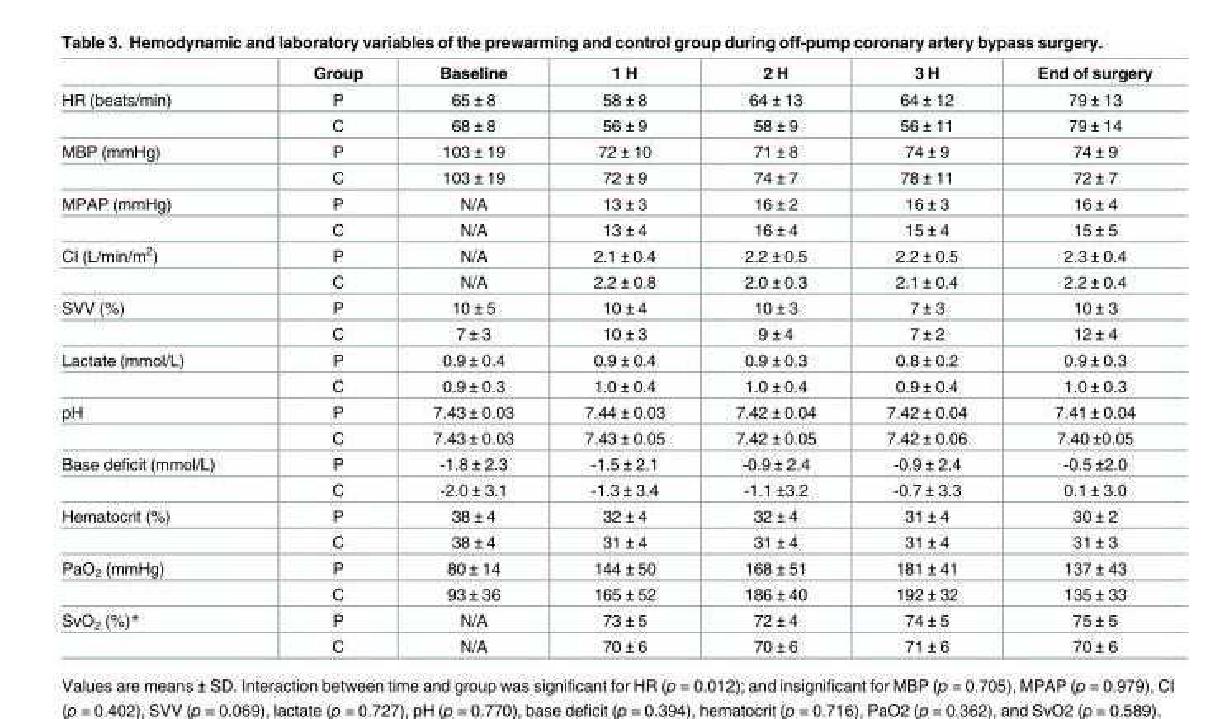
<table><thead><tr><td></td><td>Group</td><td>Baseline</td><td>1 H</td><td>2 H</td><td>3 H</td><td>End of surgery</td></tr></thead><tbody><tr><td rowspan="2">HR (beats/min)</td><td>P</td><td>65 ± 8</td><td>58 ± 8</td><td>64 ± 13</td><td>64 ± 12</td><td>79 ± 13</td></tr><tr><td>C</td><td>68 ± 8</td><td>56 ± 9</td><td>58 ± 9</td><td>56 ± 11</td><td>79 ± 14</td></tr><tr><td rowspan="2">MBP (mmHg)</td><td>P</td><td>103 ± 19</td><td>72 ± 10</td><td>71 ± 8</td><td>74 ± 9</td><td>74 ± 9</td></tr><tr><td>C</td><td>103 ± 19</td><td>72 ± 9</td><td>74 ± 7</td><td>78 ± 11</td><td>72 ± 7</td></tr><tr><td rowspan="2">MPAP (mmHg)</td><td>P</td><td>N/A</td><td>13 ± 3</td><td>16 ± 2</td><td>16 ± 3</td><td>16 ± 4</td></tr><tr><td>C</td><td>N/A</td><td>13 ± 4</td><td>16 ± 4</td><td>15 ± 4</td><td>15 ± 5</td></tr><tr><td rowspan="2">CI (L/min/m<sup>2</sup>)</td><td>P</td><td>N/A</td><td>2.1 ± 0.4</td><td>2.2 ± 0.5</td><td>2.2 ± 0.5</td><td>2.3 ± 0.4</td></tr><tr><td>C</td><td>N/A</td><td>2.2 ± 0.8</td><td>2.0 ± 0.3</td><td>2.1 ± 0.4</td><td>2.2 ± 0.4</td></tr><tr><td rowspan="2">SVV (%)</td><td>P</td><td>10 ± 5</td><td>10 ± 4</td><td>10 ± 3</td><td>7 ± 3</td><td>10 ± 3</td></tr><tr><td>C</td><td>7 ± 3</td><td>10 ± 3</td><td>9 ± 4</td><td>7 ± 2</td><td>12 ± 4</td></tr><tr><td rowspan="2">Lactate (mmol/L)</td><td>P</td><td>0.9 ± 0.4</td><td>0.9 ± 0.4</td><td>0.9 ± 0.3</td><td>0.8 ± 0.2</td><td>0.9 ± 0.3</td></tr><tr><td>C</td><td>0.9 ± 0.3</td><td>1.0 ± 0.4</td><td>1.0 ± 0.4</td><td>0.9 ± 0.4</td><td>1.0 ± 0.3</td></tr><tr><td rowspan="2">pH</td><td>P</td><td>7.43 ± 0.03</td><td>7.44 ± 0.03</td><td>7.42 ± 0.04</td><td>7.42 ± 0.04</td><td>7.41 ± 0.04</td></tr><tr><td>C</td><td>7.43 ± 0.03</td><td>7.43 ± 0.05</td><td>7.42 ± 0.05</td><td>7.42 ± 0.06</td><td>7.40 ±0.05</td></tr><tr><td rowspan="2">Base deficit (mmol/L)</td><td>P</td><td>-1.8 ± 2.3</td><td>-1.5 ± 2.1</td><td>-0.9 ± 2.4</td><td>-0.9 ± 2.4</td><td>-0.5 ±2.0</td></tr><tr><td>C</td><td>-2.0 ± 3.1</td><td>-1.3 ± 3.4</td><td>-1.1 ±3.2</td><td>-0.7 ± 3.3</td><td>0.1 ± 3.0</td></tr><tr><td rowspan="2">Hematocrit (%)</td><td>P</td><td>38 ± 4</td><td>32 ± 4</td><td>32 ± 4</td><td>31 ± 4</td><td>30 ± 2</td></tr><tr><td>C</td><td>38 ± 4</td><td>31 ± 4</td><td>31 ± 4</td><td>31 ± 4</td><td>31 ± 3</td></tr><tr><td rowspan="2">PaO<sub>2</sub> (mmHg)</td><td>P</td><td>80 ± 14</td><td>144 ± 50</td><td>168 ± 51</td><td>181 ± 41</td><td>137 ± 43</td></tr><tr><td>C</td><td>93 ± 36</td><td>165 ± 52</td><td>186 ± 40</td><td>192 ± 32</td><td>135 ± 33</td></tr><tr><td rowspan="2">SvO<sub>2</sub> (%)*</td><td>P</td><td>N/A</td><td>73 ± 5</td><td>72 ± 4</td><td>74 ± 5</td><td>75 ± 5</td></tr><tr><td>C</td><td>N/A</td><td>70 ± 6</td><td>70 ± 6</td><td>71 ± 6</td><td>70 ± 6</td></tr></tbody></table>